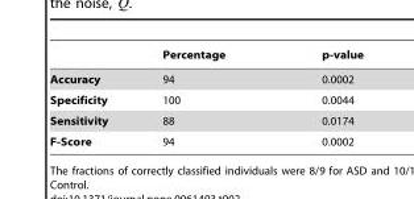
<table><thead><tr><td></td><td>Percentage</td><td>p-value</td></tr></thead><tbody><tr><td>Accuracy</td><td>94</td><td>0.0002</td></tr><tr><td>Specificity</td><td>100</td><td>0.0044</td></tr><tr><td>Sensitivity</td><td>88</td><td>0.0174</td></tr><tr><td>F-Score</td><td>94</td><td>0.0002</td></tr></tbody></table>